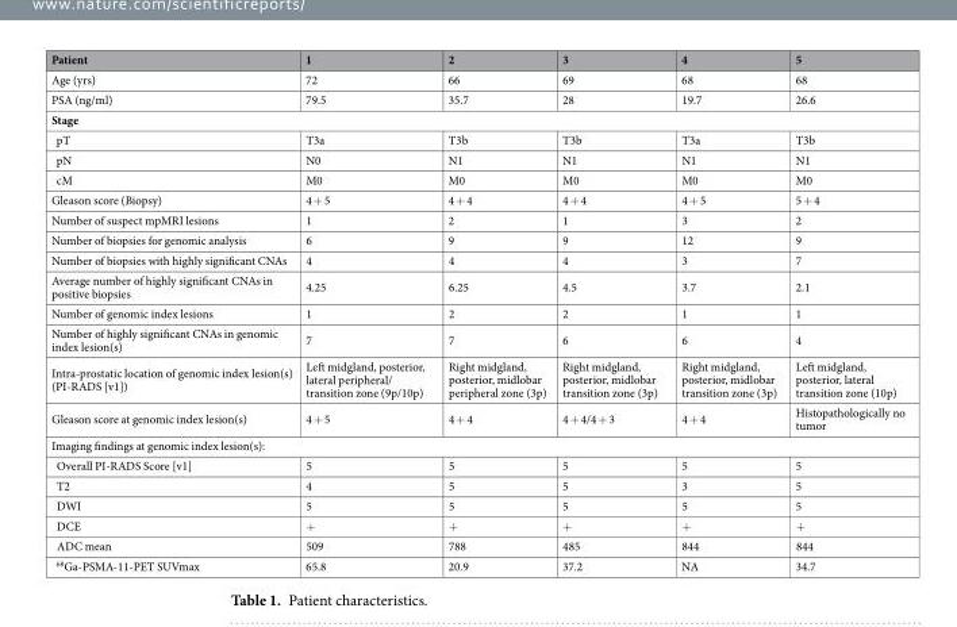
<table><thead><tr><td>Patient</td><td>1</td><td>2</td><td>3</td><td>4</td><td>5</td></tr></thead><tbody><tr><td>Age (yrs)</td><td>72</td><td>66</td><td>69</td><td>68</td><td>68</td></tr><tr><td>PSA (ng/ml)</td><td>79.5</td><td>35.7</td><td>28</td><td>19.7</td><td>26.6</td></tr><tr><td colspan="6">Stage</td></tr><tr><td>pT</td><td>T3a</td><td>T3b</td><td>T3b</td><td>T3a</td><td>T3b</td></tr><tr><td>pN</td><td>N0</td><td>N1</td><td>N1</td><td>N1</td><td>N1</td></tr><tr><td>cM</td><td>M0</td><td>M0</td><td>M0</td><td>M0</td><td>M0</td></tr><tr><td>Gleason score (Biopsy)</td><td>4 + 5</td><td>4 + 4</td><td>4 + 4</td><td>4 + 5</td><td>5 + 4</td></tr><tr><td>Number of suspect mpMRI lesions</td><td>1</td><td>2</td><td>1</td><td>3</td><td>2</td></tr><tr><td>Number of biopsies for genomic analysis</td><td>6</td><td>9</td><td>9</td><td>12</td><td>9</td></tr><tr><td>Number of biopsies with highly significant CNAs</td><td>4</td><td>4</td><td>4</td><td>3</td><td>7</td></tr><tr><td>Average number of highly significant CNAs in positive biopsies</td><td>4.25</td><td>6.25</td><td>4.5</td><td>3.7</td><td>2.1</td></tr><tr><td>Number of genomic index lesions</td><td>1</td><td>2</td><td>2</td><td>1</td><td>1</td></tr><tr><td>Number of highly significant CNAs in genomic index lesion(s)</td><td>7</td><td>7</td><td>6</td><td>6</td><td>4</td></tr><tr><td>Intra-prostatic location of genomic index lesion(s) (PI-RADS [v1])</td><td>Left midgland, posterior, lateral peripheral/ transition zone (9p/10p)</td><td>Right midgland, posterior, midlobar peripheral zone (3p)</td><td>Right midgland, posterior, midlobar transition zone (3p)</td><td>Right midgland, posterior, midlobar transition zone (3p)</td><td>Left midgland, posterior, lateral transition zone (10p)</td></tr><tr><td>Gleason score at genomic index lesion(s)</td><td>4 + 5</td><td>4 + 4</td><td>4 + 4/4 + 3</td><td>4 + 4</td><td>Histopathologically no tumor</td></tr><tr><td colspan="6">Imaging findings at genomic index lesion(s):</td></tr><tr><td>Overall PI-RADS Score [v1]</td><td>5</td><td>5</td><td>5</td><td>5</td><td>5</td></tr><tr><td>T2</td><td>4</td><td>5</td><td>5</td><td>3</td><td>5</td></tr><tr><td>DWI</td><td>5</td><td>5</td><td>5</td><td>5</td><td>5</td></tr><tr><td>DCE</td><td>+</td><td>+</td><td>+</td><td>+</td><td>+</td></tr><tr><td>ADC mean</td><td>509</td><td>788</td><td>485</td><td>844</td><td>844</td></tr><tr><td><sup>68</sup>Ga-PSMA-11-PET SUVmax</td><td>65.8</td><td>20.9</td><td>37.2</td><td>NA</td><td>34.7</td></tr></tbody></table>